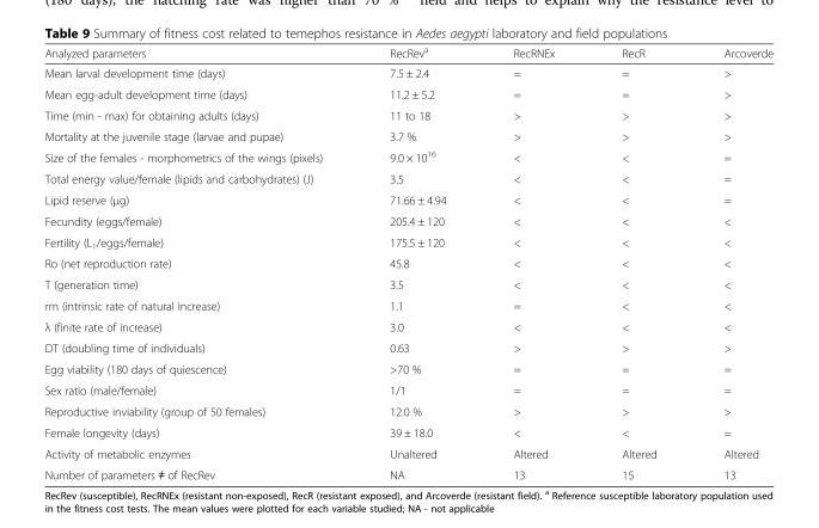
<table><thead><tr><td>Analyzed parameters</td><td>RecRev<sup>a</sup></td><td>RecRNEx</td><td>RecR</td><td>Arcoverde</td></tr></thead><tbody><tr><td>Mean larval development time (days)</td><td>7.5 ± 2.4</td><td>=</td><td>=</td><td>&gt;</td></tr><tr><td>Mean egg-adult development time (days)</td><td>11.2 ± 5.2</td><td>=</td><td>=</td><td>&gt;</td></tr><tr><td>Time (min - max) for obtaining adults (days)</td><td>11 to 18</td><td>&gt;</td><td>&gt;</td><td>&gt;</td></tr><tr><td>Mortality at the juvenile stage (larvae and pupae)</td><td>3.7 %</td><td>&gt;</td><td>&gt;</td><td>&gt;</td></tr><tr><td>Size of the females - morphometrics of the wings (pixels)</td><td>9.0 × 10<sup>16</sup></td><td>&lt;</td><td>&lt;</td><td>=</td></tr><tr><td>Total energy value/female (lipids and carbohydrates) (J)</td><td>3.5</td><td>&lt;</td><td>&lt;</td><td>=</td></tr><tr><td>Lipid reserve (μg)</td><td>71.66 ± 4.94</td><td>&lt;</td><td>&lt;</td><td>=</td></tr><tr><td>Fecundity (eggs/female)</td><td>205.4 ± 120</td><td>&lt;</td><td>&lt;</td><td>&lt;</td></tr><tr><td>Fertility (L<sub>1</sub>/eggs/female)</td><td>175.5 ± 120</td><td>&lt;</td><td>&lt;</td><td>&lt;</td></tr><tr><td>Ro (net reproduction rate)</td><td>45.8</td><td>&lt;</td><td>&lt;</td><td>&lt;</td></tr><tr><td>T (generation time)</td><td>3.5</td><td>&lt;</td><td>&lt;</td><td>&lt;</td></tr><tr><td>rm (intrinsic rate of natural increase)</td><td>1.1</td><td>=</td><td>&lt;</td><td>&lt;</td></tr><tr><td>λ (finite rate of increase)</td><td>3.0</td><td>&lt;</td><td>&lt;</td><td>&lt;</td></tr><tr><td>DT (doubling time of individuals)</td><td>0.63</td><td>&gt;</td><td>&gt;</td><td>&gt;</td></tr><tr><td>Egg viability (180 days of quiescence)</td><td>&gt;70 %</td><td>=</td><td>=</td><td>=</td></tr><tr><td>Sex ratio (male/female)</td><td>1/1</td><td>=</td><td>=</td><td>=</td></tr><tr><td>Reproductive inviability (group of 50 females)</td><td>12.0 %</td><td>&gt;</td><td>&gt;</td><td>&gt;</td></tr><tr><td>Female longevity (days)</td><td>39 ± 18.0</td><td>&lt;</td><td>&lt;</td><td>=</td></tr><tr><td>Activity of metabolic enzymes</td><td>Unaltered</td><td>Altered</td><td>Altered</td><td>Altered</td></tr><tr><td>Number of parameters ≠ of RecRev</td><td>NA</td><td>13</td><td>15</td><td>13</td></tr></tbody></table>